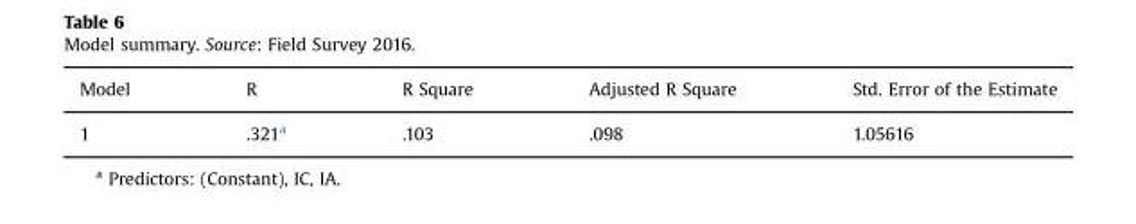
<table><thead><tr><td>Model</td><td>R</td><td>R Square</td><td>Adjusted R Square</td><td>Std. Error of the Estimate</td></tr></thead><tbody><tr><td>1</td><td>.321<sup>a</sup></td><td>.103</td><td>.098</td><td>1.05616</td></tr></tbody></table>